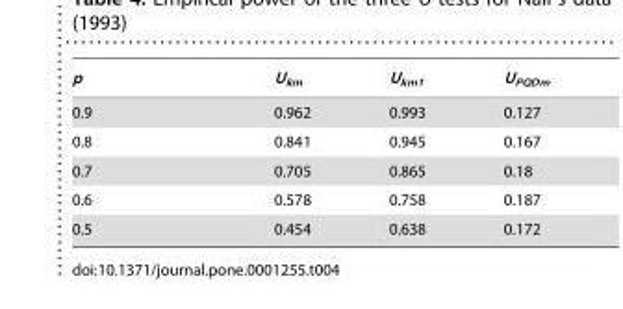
<table><thead><tr><td>p</td><td>U<sub>km</sub></td><td>U<sub>km1</sub></td><td>U<sub>PQDm</sub></td></tr></thead><tbody><tr><td>0.9</td><td>0.962</td><td>0.993</td><td>0.127</td></tr><tr><td>0.8</td><td>0.841</td><td>0.945</td><td>0.167</td></tr><tr><td>0.7</td><td>0.705</td><td>0.865</td><td>0.18</td></tr><tr><td>0.6</td><td>0.578</td><td>0.758</td><td>0.187</td></tr><tr><td>0.5</td><td>0.454</td><td>0.638</td><td>0.172</td></tr></tbody></table>